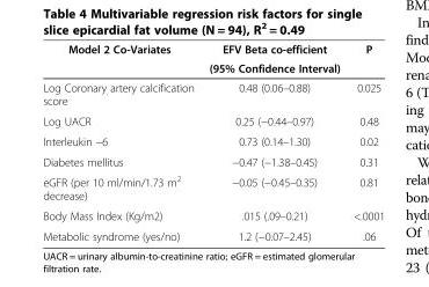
<table><thead><tr><td rowspan="2">Model 2 Co-Variates</td><td rowspan="2">EFV Beta co-efficient (95% Confidence Interval)</td><td rowspan="2">P</td></tr><tr></tr></thead><tbody><tr><td>Log Coronary artery calcification score</td><td>0.48 (0.06–0.88)</td><td>0.025</td></tr><tr><td>Log UACR</td><td>0.25 (−0.44–0.97)</td><td>0.48</td></tr><tr><td>Interleukin −6</td><td>0.73 (0.14–1.30)</td><td>0.02</td></tr><tr><td>Diabetes mellitus</td><td>−0.47 (−1.38–0.45)</td><td>0.31</td></tr><tr><td>eGFR (per 10 ml/min/1.73 m<sup>2</sup> decrease)</td><td>−0.05 (−0.45–0.35)</td><td>0.81</td></tr><tr><td>Body Mass Index (Kg/m2)</td><td>.015 (.09–0.21)</td><td>&lt;.0001</td></tr><tr><td>Metabolic syndrome (yes/no)</td><td>1.2 (−0.07–2.45)</td><td>.06</td></tr></tbody></table>